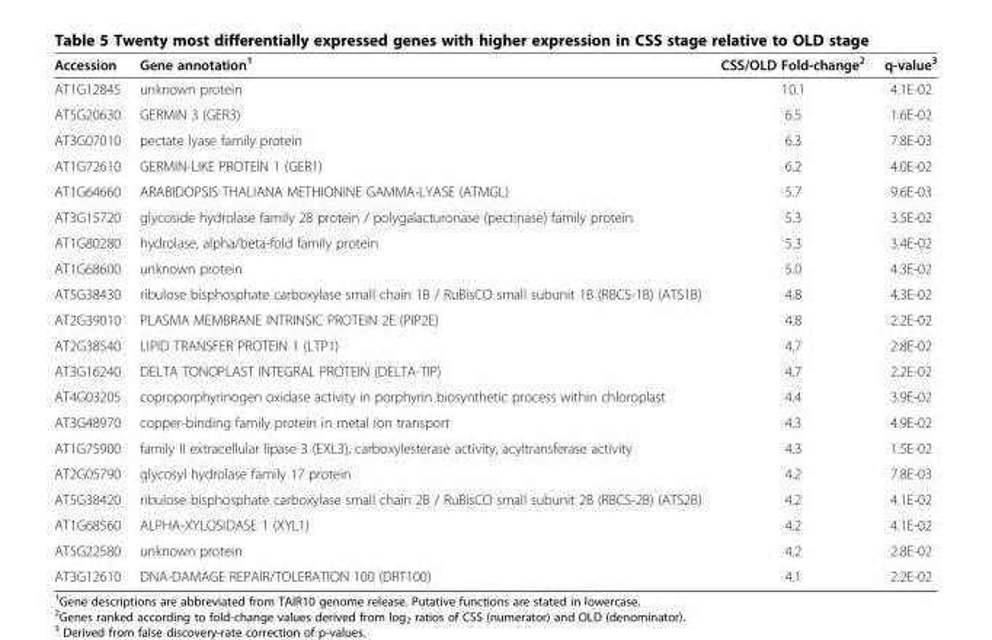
<table><thead><tr><td>Accession</td><td>Gene annotation<sup>1</sup></td><td>CSS/OLD Fold-change<sup>2</sup></td><td>q-value<sup>3</sup></td></tr></thead><tbody><tr><td>AT1G12845</td><td>unknown protein</td><td>10.1</td><td>4.1E-02</td></tr><tr><td>AT5G20630</td><td>GERMIN 3 (GER3)</td><td>6.5</td><td>1.6E-02</td></tr><tr><td>AT3G07010</td><td>pectate lyase family protein</td><td>6.3</td><td>7.8E-03</td></tr><tr><td>AT1G72610</td><td>GERMIN-LIKE PROTEIN 1 (GER1)</td><td>6.2</td><td>4.0E-02</td></tr><tr><td>AT1G64660</td><td>ARABIDOPSIS THALIANA METHIONINE GAMMA-LYASE (ATMGL)</td><td>5.7</td><td>9.6E-03</td></tr><tr><td>AT3G15720</td><td>glycoside hydrolase family 28 protein / polygalacturonase (pectinase) family protein</td><td>5.3</td><td>3.5E-02</td></tr><tr><td>AT1G80280</td><td>hydrolase, alpha/beta-fold family protein</td><td>5.3</td><td>3.4E-02</td></tr><tr><td>AT1G68600</td><td>unknown protein</td><td>5.0</td><td>4.3E-02</td></tr><tr><td>AT5G38430</td><td>ribulose bisphosphate carboxylase small chain 1B / RuBisCO small subunit 1B (RBCS-1B) (ATS1B)</td><td>4.8</td><td>4.3E-02</td></tr><tr><td>AT2G39010</td><td>PLASMA MEMBRANE INTRINSIC PROTEIN 2E (PIP2E)</td><td>4.8</td><td>2.2E-02</td></tr><tr><td>AT2G38540</td><td>LIPID TRANSFER PROTEIN 1 (LTP1)</td><td>4.7</td><td>2.8E-02</td></tr><tr><td>AT3G16240</td><td>DELTA TONOPLAST INTEGRAL PROTEIN (DELTA-TIP)</td><td>4.7</td><td>2.2E-02</td></tr><tr><td>AT4G03205</td><td>coproporphyrinogen oxidase activity in porphyrin biosynthetic process within chloroplast</td><td>4.4</td><td>3.9E-02</td></tr><tr><td>AT3G48970</td><td>copper-binding family protein in metal ion transport</td><td>4.3</td><td>4.9E-02</td></tr><tr><td>AT1G75900</td><td>family II extracellular lipase 3 (EXL3), carboxylesterase activity, acyltransferase activity</td><td>4.3</td><td>1.5E-02</td></tr><tr><td>AT2G05790</td><td>glycosyl hydrolase family 17 protein</td><td>4.2</td><td>7.8E-03</td></tr><tr><td>AT5G38420</td><td>ribulose bisphosphate carboxylase small chain 2B / RuBisCO small subunit 2B (RBCS-2B) (ATS2B)</td><td>4.2</td><td>4.1E-02</td></tr><tr><td>AT1G68560</td><td>ALPHA-XYLOSIDASE 1 (XYL1)</td><td>4.2</td><td>4.1E-02</td></tr><tr><td>AT5G22580</td><td>unknown protein</td><td>4.2</td><td>2.8E-02</td></tr><tr><td>AT3G12610</td><td>DNA-DAMAGE REPAIR/TOLERATION 100 (DRT100)</td><td>4.1</td><td>2.2E-02</td></tr></tbody></table>